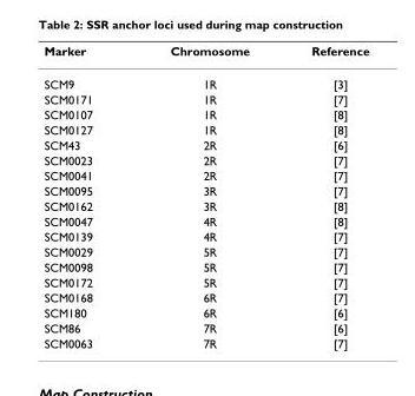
<table><thead><tr><td>Marker</td><td>Chromosome</td><td>Reference</td></tr></thead><tbody><tr><td>SCM9</td><td>1R</td><td>[3]</td></tr><tr><td>SCM0171</td><td>1R</td><td>[7]</td></tr><tr><td>SCM0107</td><td>1R</td><td>[8]</td></tr><tr><td>SCM0127</td><td>1R</td><td>[8]</td></tr><tr><td>SCM43</td><td>2R</td><td>[6]</td></tr><tr><td>SCM0023</td><td>2R</td><td>[7]</td></tr><tr><td>SCM0041</td><td>2R</td><td>[7]</td></tr><tr><td>SCM0095</td><td>3R</td><td>[7]</td></tr><tr><td>SCM0162</td><td>3R</td><td>[8]</td></tr><tr><td>SCM0047</td><td>4R</td><td>[8]</td></tr><tr><td>SCM0139</td><td>4R</td><td>[7]</td></tr><tr><td>SCM0029</td><td>5R</td><td>[7]</td></tr><tr><td>SCM0098</td><td>5R</td><td>[7]</td></tr><tr><td>SCM0172</td><td>5R</td><td>[7]</td></tr><tr><td>SCM0168</td><td>6R</td><td>[7]</td></tr><tr><td>SCM180</td><td>6R</td><td>[6]</td></tr><tr><td>SCM86</td><td>7R</td><td>[6]</td></tr><tr><td>SCM0063</td><td>7R</td><td>[7]</td></tr></tbody></table>